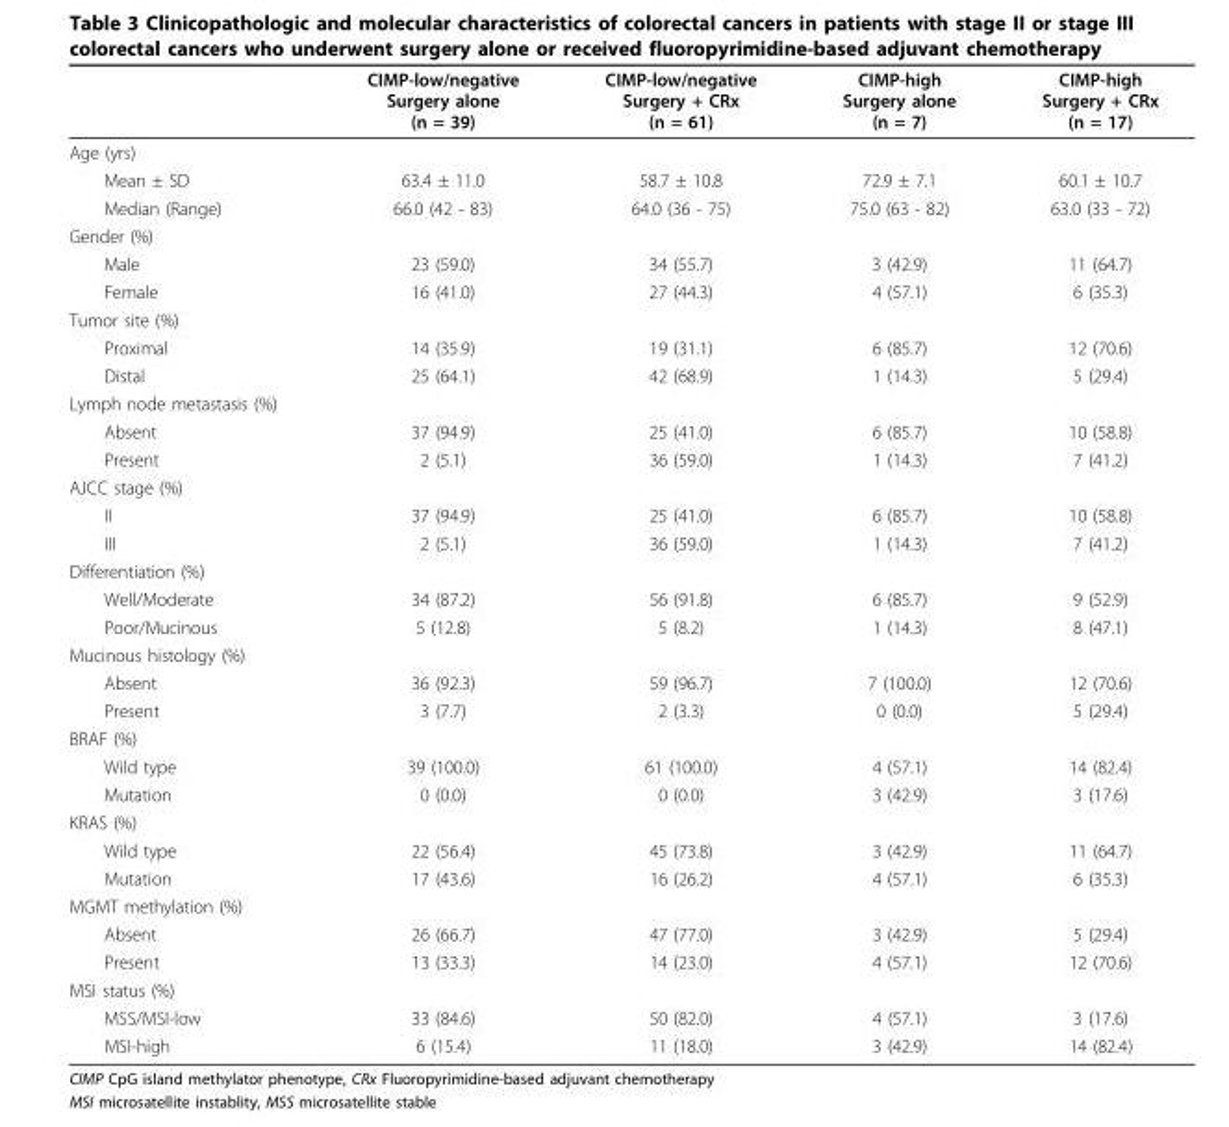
<table><thead><tr><td></td><td>CIMP-low/negative Surgery alone (n = 39)</td><td>CIMP-low/negative Surgery + CRx (n = 61)</td><td>CIMP-high Surgery alone (n = 7)</td><td>CIMP-high Surgery + CRx (n = 17)</td></tr></thead><tbody><tr><td colspan="5">Age (yrs)</td></tr><tr><td>Mean ± SD</td><td>63.4 ± 11.0</td><td>58.7 ± 10.8</td><td>72.9 ± 7.1</td><td>60.1 ± 10.7</td></tr><tr><td>Median (Range)</td><td>66.0 (42 - 83)</td><td>64.0 (36 - 75)</td><td>75.0 (63 - 82)</td><td>63.0 (33 - 72)</td></tr><tr><td colspan="5">Gender (%)</td></tr><tr><td>Male</td><td>23 (59.0)</td><td>34 (55.7)</td><td>3 (42.9)</td><td>11 (64.7)</td></tr><tr><td>Female</td><td>16 (41.0)</td><td>27 (44.3)</td><td>4 (57.1)</td><td>6 (35.3)</td></tr><tr><td colspan="5">Tumor site (%)</td></tr><tr><td>Proximal</td><td>14 (35.9)</td><td>19 (31.1)</td><td>6 (85.7)</td><td>12 (70.6)</td></tr><tr><td>Distal</td><td>25 (64.1)</td><td>42 (68.9)</td><td>1 (14.3)</td><td>5 (29.4)</td></tr><tr><td colspan="5">Lymph node metastasis (%)</td></tr><tr><td>Absent</td><td>37 (94.9)</td><td>25 (41.0)</td><td>6 (85.7)</td><td>10 (58.8)</td></tr><tr><td>Present</td><td>2 (5.1)</td><td>36 (59.0)</td><td>1 (14.3)</td><td>7 (41.2)</td></tr><tr><td colspan="5">AJCC stage (%)</td></tr><tr><td>II</td><td>37 (94.9)</td><td>25 (41.0)</td><td>6 (85.7)</td><td>10 (58.8)</td></tr><tr><td>III</td><td>2 (5.1)</td><td>36 (59.0)</td><td>1 (14.3)</td><td>7 (41.2)</td></tr><tr><td colspan="5">Differentiation (%)</td></tr><tr><td>Well/Moderate</td><td>34 (87.2)</td><td>56 (91.8)</td><td>6 (85.7)</td><td>9 (52.9)</td></tr><tr><td>Poor/Mucinous</td><td>5 (12.8)</td><td>5 (8.2)</td><td>1 (14.3)</td><td>8 (47.1)</td></tr><tr><td colspan="5">Mucinous histology (%)</td></tr><tr><td>Absent</td><td>36 (92.3)</td><td>59 (96.7)</td><td>7 (100.0)</td><td>12 (70.6)</td></tr><tr><td>Present</td><td>3 (7.7)</td><td>2 (3.3)</td><td>0 (0.0)</td><td>5 (29.4)</td></tr><tr><td colspan="5">BRAF (%)</td></tr><tr><td>Wild type</td><td>39 (100.0)</td><td>61 (100.0)</td><td>4 (57.1)</td><td>14 (82.4)</td></tr><tr><td>Mutation</td><td>0 (0.0)</td><td>0 (0.0)</td><td>3 (42.9)</td><td>3 (17.6)</td></tr><tr><td colspan="5">KRAS (%)</td></tr><tr><td>Wild type</td><td>22 (56.4)</td><td>45 (73.8)</td><td>3 (42.9)</td><td>11 (64.7)</td></tr><tr><td>Mutation</td><td>17 (43.6)</td><td>16 (26.2)</td><td>4 (57.1)</td><td>6 (35.3)</td></tr><tr><td colspan="5">MGMT methylation (%)</td></tr><tr><td>Absent</td><td>26 (66.7)</td><td>47 (77.0)</td><td>3 (42.9)</td><td>5 (29.4)</td></tr><tr><td>Present</td><td>13 (33.3)</td><td>14 (23.0)</td><td>4 (57.1)</td><td>12 (70.6)</td></tr><tr><td colspan="5">MSI status (%)</td></tr><tr><td>MSS/MSI-low</td><td>33 (84.6)</td><td>50 (82.0)</td><td>4 (57.1)</td><td>3 (17.6)</td></tr><tr><td>MSI-high</td><td>6 (15.4)</td><td>11 (18.0)</td><td>3 (42.9)</td><td>14 (82.4)</td></tr></tbody></table>